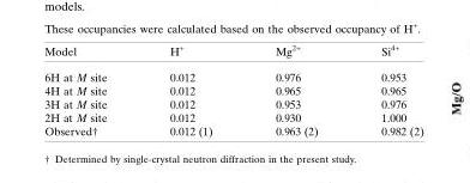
<table><thead><tr><td>Model</td><td>H<sup>+</sup></td><td>Mg<sup>2+</sup></td><td>Si<sup>4+</sup></td></tr></thead><tbody><tr><td>6H at M site</td><td>0.012</td><td>0.976</td><td>0.953</td></tr><tr><td>4H at M site</td><td>0.012</td><td>0.965</td><td>0.965</td></tr><tr><td>3H at M site</td><td>0.012</td><td>0.953</td><td>0.976</td></tr><tr><td>2H at M site</td><td>0.012</td><td>0.930</td><td>1.000</td></tr><tr><td>Observed†</td><td>0.012 (1)</td><td>0.963 (2)</td><td>0.982 (2)</td></tr></tbody></table>